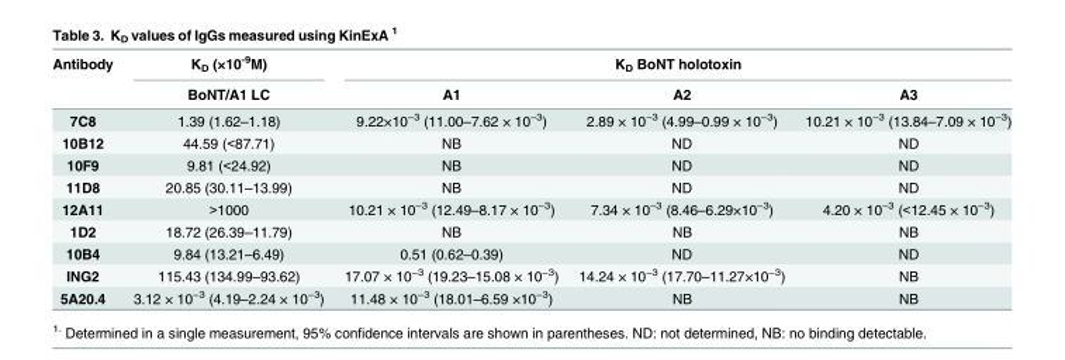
<table><thead><tr><td rowspan="2">Antibody</td><td rowspan="2">K<sub>D</sub> (×10<sup>-9</sup>M) BoNT/A1 LC</td><td colspan="3">K<sub>D</sub> BoNT holotoxin</td></tr><tr><td>A1</td><td>A2</td><td>A3</td></tr></thead><tbody><tr><td>7C8</td><td>1.39 (1.62–1.18)</td><td>9.22×10<sup>−3</sup> (11.00–7.62 × 10<sup>−3</sup>)</td><td>2.89 × 10<sup>−3</sup> (4.99–0.99 × 10<sup>−3</sup>)</td><td>10.21 × 10<sup>−3</sup> (13.84–7.09 × 10<sup>−3</sup>)</td></tr><tr><td>10B12</td><td>44.59 (&lt;87.71)</td><td>NB</td><td>ND</td><td>ND</td></tr><tr><td>10F9</td><td>9.81 (&lt;24.92)</td><td>NB</td><td>ND</td><td>ND</td></tr><tr><td>11D8</td><td>20.85 (30.11–13.99)</td><td>NB</td><td>ND</td><td>ND</td></tr><tr><td>12A11</td><td>&gt;1000</td><td>10.21 × 10<sup>−3</sup> (12.49–8.17 × 10<sup>−3</sup>)</td><td>7.34 × 10<sup>−3</sup> (8.46–6.29×10<sup>−3</sup>)</td><td>4.20 × 10<sup>−3</sup> (&lt;12.45 × 10<sup>−3</sup>)</td></tr><tr><td>1D2</td><td>18.72 (26.39–11.79)</td><td>NB</td><td>NB</td><td>NB</td></tr><tr><td>10B4</td><td>9.84 (13.21–6.49)</td><td>0.51 (0.62–0.39)</td><td>ND</td><td>ND</td></tr><tr><td>ING2</td><td>115.43 (134.99–93.62)</td><td>17.07 × 10<sup>−3</sup> (19.23–15.08 × 10<sup>−3</sup>)</td><td>14.24 × 10<sup>−3</sup> (17.70–11.27×10<sup>−3</sup>)</td><td>NB</td></tr><tr><td>5A20.4</td><td>3.12 × 10<sup>−3</sup> (4.19–2.24 × 10<sup>−3</sup>)</td><td>11.48 × 10<sup>−3</sup> (18.01–6.59 ×10<sup>−3</sup>)</td><td>NB</td><td>NB</td></tr></tbody></table>